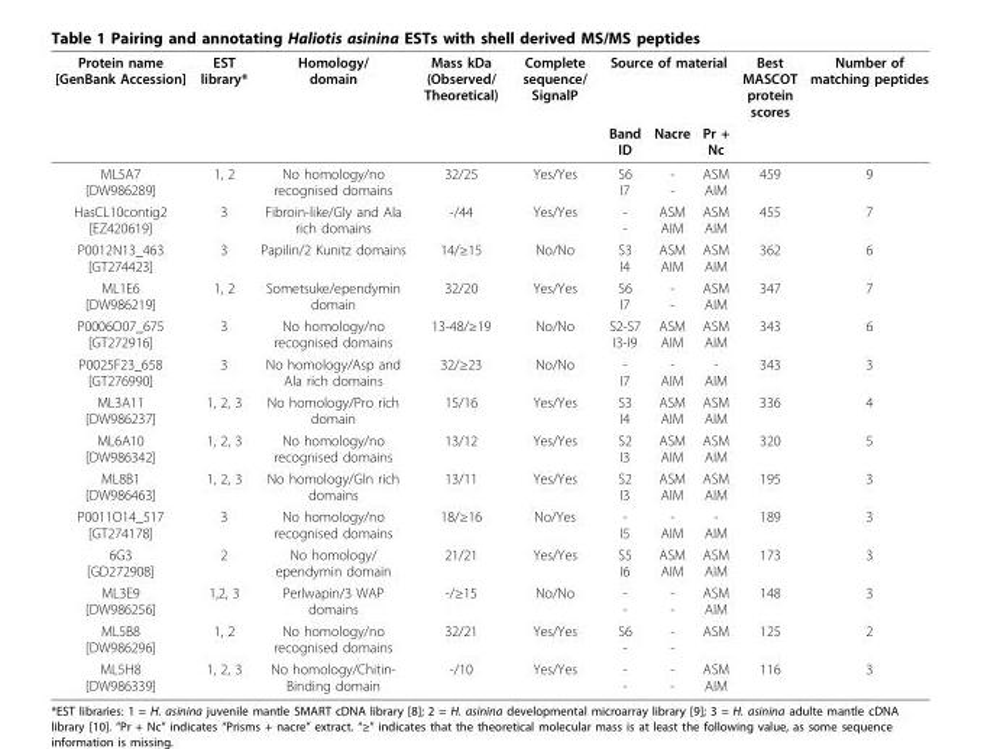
<table><thead><tr><td rowspan="2">Protein name [GenBank Accession]</td><td rowspan="2">EST library*</td><td rowspan="2">Homology/ domain</td><td rowspan="2">Mass kDa (Observed/ Theoretical)</td><td rowspan="2">Complete sequence/ SignalP</td><td colspan="3">Source of material</td><td rowspan="2">Best MASCOT protein scores</td><td rowspan="2">Number of matching peptides</td></tr><tr><td>Band ID</td><td>Nacre</td><td>Pr + Nc</td></tr></thead><tbody><tr><td>ML5A7 [DW986289]</td><td>1, 2</td><td>No homology/no recognised domains</td><td>32/25</td><td>Yes/Yes</td><td>S6 I7</td><td>- -</td><td>ASM AIM</td><td>459</td><td>9</td></tr><tr><td>HasCL10contig2 [EZ420619]</td><td>3</td><td>Fibroin-like/Gly and Ala rich domains</td><td>-/44</td><td>Yes/Yes</td><td>- -</td><td>ASM AIM</td><td>ASM AIM</td><td>455</td><td>7</td></tr><tr><td>P0012N13_463 [GT274423]</td><td>3</td><td>Papilin/2 Kunitz domains</td><td>14/≥15</td><td>No/No</td><td>S3 I4</td><td>ASM AIM</td><td>ASM AIM</td><td>362</td><td>6</td></tr><tr><td>ML1E6 [DW986219]</td><td>1, 2</td><td>Sometsuke/ependymin domain</td><td>32/20</td><td>Yes/Yes</td><td>S6 I7</td><td>- -</td><td>ASM AIM</td><td>347</td><td>7</td></tr><tr><td>P0006O07_675 [GT272916]</td><td>3</td><td>No homology/no recognised domains</td><td>13-48/≥19</td><td>No/No</td><td>S2-S7 I3-I9</td><td>ASM AIM</td><td>ASM AIM</td><td>343</td><td>6</td></tr><tr><td>P0025F23_658 [GT276990]</td><td>3</td><td>No homology/Asp and Ala rich domains</td><td>32/≥23</td><td>No/No</td><td>- I7</td><td>- AIM</td><td>- AIM</td><td>343</td><td>3</td></tr><tr><td>ML3A11 [DW986237]</td><td>1, 2, 3</td><td>No homology/Pro rich domain</td><td>15/16</td><td>Yes/Yes</td><td>S3 I4</td><td>ASM AIM</td><td>ASM AIM</td><td>336</td><td>4</td></tr><tr><td>ML6A10 [DW986342]</td><td>1, 2, 3</td><td>No homology/no recognised domains</td><td>13/12</td><td>Yes/Yes</td><td>S2 I3</td><td>ASM AIM</td><td>ASM AIM</td><td>320</td><td>5</td></tr><tr><td>ML8B1 [DW986463]</td><td>1, 2, 3</td><td>No homology/Gln rich domains</td><td>13/11</td><td>Yes/Yes</td><td>S2 I3</td><td>ASM AIM</td><td>ASM AIM</td><td>195</td><td>3</td></tr><tr><td>P0011O14_517 [GT274178]</td><td>3</td><td>No homology/no recognised domains</td><td>18/≥16</td><td>No/Yes</td><td>- I5</td><td>- AIM</td><td>- AIM</td><td>189</td><td>3</td></tr><tr><td>6G3 [GD272908]</td><td>2</td><td>No homology/ ependymin domain</td><td>21/21</td><td>Yes/Yes</td><td>S5 I6</td><td>ASM AIM</td><td>ASM AIM</td><td>173</td><td>3</td></tr><tr><td>ML3E9 [DW986256]</td><td>1,2, 3</td><td>Perlwapin/3 WAP domains</td><td>-/≥15</td><td>No/No</td><td>- -</td><td>- -</td><td>ASM AIM</td><td>148</td><td>3</td></tr><tr><td>ML5B8 [DW986296]</td><td>1, 2</td><td>No homology/no recognised domains</td><td>32/21</td><td>Yes/Yes</td><td>S6 -</td><td>- -</td><td>ASM</td><td>125</td><td>2</td></tr><tr><td>ML5H8 [DW986339]</td><td>1, 2, 3</td><td>No homology/Chitin- Binding domain</td><td>-/10</td><td>Yes/Yes</td><td>- -</td><td>- -</td><td>ASM AIM</td><td>116</td><td>3</td></tr></tbody></table>